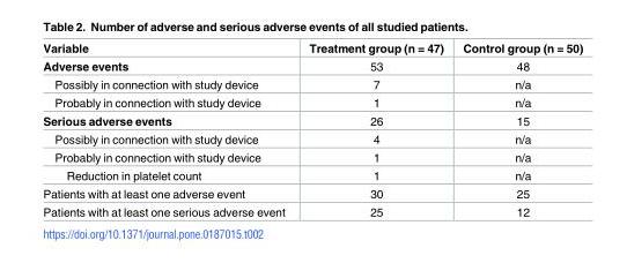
<table><thead><tr><td>Variable</td><td>Treatment group (n = 47)</td><td>Control group (n = 50)</td></tr></thead><tbody><tr><td>Adverse events</td><td>53</td><td>48</td></tr><tr><td>Possibly in connection with study device</td><td>7</td><td>n/a</td></tr><tr><td>Probably in connection with study device</td><td>1</td><td>n/a</td></tr><tr><td>Serious adverse events</td><td>26</td><td>15</td></tr><tr><td>Possibly in connection with study device</td><td>4</td><td>n/a</td></tr><tr><td>Probably in connection with study device</td><td>1</td><td>n/a</td></tr><tr><td>Reduction in platelet count</td><td>1</td><td>n/a</td></tr><tr><td>Patients with at least one adverse event</td><td>30</td><td>25</td></tr><tr><td>Patients with at least one serious adverse event</td><td>25</td><td>12</td></tr></tbody></table>